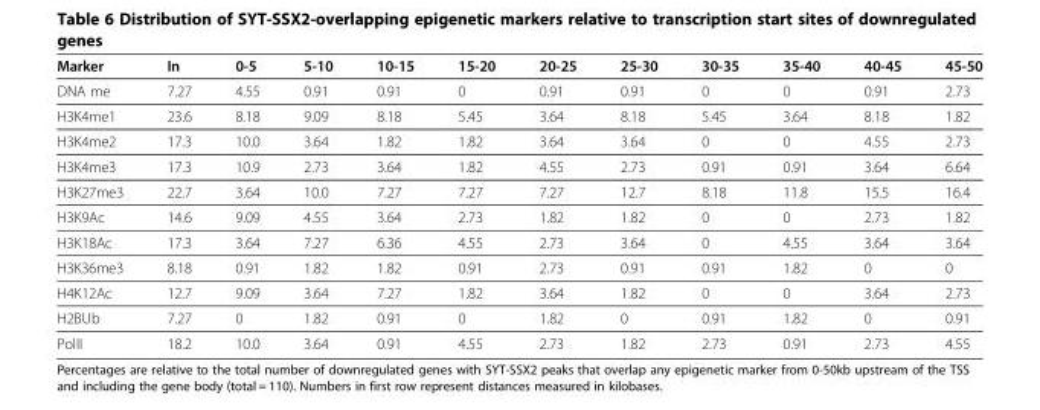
<table><thead><tr><td>Marker</td><td>In</td><td>0-5</td><td>5-10</td><td>10-15</td><td>15-20</td><td>20-25</td><td>25-30</td><td>30-35</td><td>35-40</td><td>40-45</td><td>45-50</td></tr></thead><tbody><tr><td>DNA me</td><td>7.27</td><td>4.55</td><td>0.91</td><td>0.91</td><td>0</td><td>0.91</td><td>0.91</td><td>0</td><td>0</td><td>0.91</td><td>2.73</td></tr><tr><td>H3K4me1</td><td>23.6</td><td>8.18</td><td>9.09</td><td>8.18</td><td>5.45</td><td>3.64</td><td>8.18</td><td>5.45</td><td>3.64</td><td>8.18</td><td>1.82</td></tr><tr><td>H3K4me2</td><td>17.3</td><td>10.0</td><td>3.64</td><td>1.82</td><td>1.82</td><td>3.64</td><td>3.64</td><td>0</td><td>0</td><td>4.55</td><td>2.73</td></tr><tr><td>H3K4me3</td><td>17.3</td><td>10.9</td><td>2.73</td><td>3.64</td><td>1.82</td><td>4.55</td><td>2.73</td><td>0.91</td><td>0.91</td><td>3.64</td><td>6.64</td></tr><tr><td>H3K27me3</td><td>22.7</td><td>3.64</td><td>10.0</td><td>7.27</td><td>7.27</td><td>7.27</td><td>12.7</td><td>8.18</td><td>11.8</td><td>15.5</td><td>16.4</td></tr><tr><td>H3K9Ac</td><td>14.6</td><td>9.09</td><td>4.55</td><td>3.64</td><td>2.73</td><td>1.82</td><td>1.82</td><td>0</td><td>0</td><td>2.73</td><td>1.82</td></tr><tr><td>H3K18Ac</td><td>17.3</td><td>3.64</td><td>7.27</td><td>6.36</td><td>4.55</td><td>2.73</td><td>3.64</td><td>0</td><td>4.55</td><td>3.64</td><td>3.64</td></tr><tr><td>H3K36me3</td><td>8.18</td><td>0.91</td><td>1.82</td><td>1.82</td><td>0.91</td><td>2.73</td><td>0.91</td><td>0.91</td><td>1.82</td><td>0</td><td>0</td></tr><tr><td>H4K12Ac</td><td>12.7</td><td>9.09</td><td>3.64</td><td>7.27</td><td>1.82</td><td>3.64</td><td>1.82</td><td>0</td><td>0</td><td>3.64</td><td>2.73</td></tr><tr><td>H2BUb</td><td>7.27</td><td>0</td><td>1.82</td><td>0.91</td><td>0</td><td>1.82</td><td>0</td><td>0.91</td><td>1.82</td><td>0</td><td>0.91</td></tr><tr><td>PolII</td><td>18.2</td><td>10.0</td><td>3.64</td><td>0.91</td><td>4.55</td><td>2.73</td><td>1.82</td><td>2.73</td><td>0.91</td><td>2.73</td><td>4.55</td></tr></tbody></table>